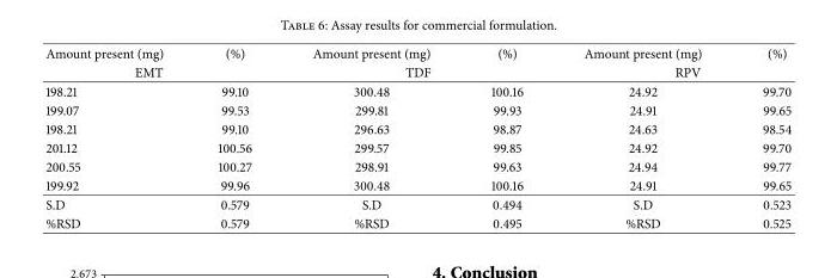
<table><thead><tr><td>Amount present (mg)</td><td>(%)</td><td>Amount present (mg)</td><td>(%)</td><td>Amount present (mg)</td><td>(%)</td></tr><tr><td colspan="2">EMT</td><td colspan="2">TDF</td><td colspan="2">RPV</td></tr></thead><tbody><tr><td>198.21</td><td>99.10</td><td>300.48</td><td>100.16</td><td>24.92</td><td>99.70</td></tr><tr><td>199.07</td><td>99.53</td><td>299.81</td><td>99.93</td><td>24.91</td><td>99.65</td></tr><tr><td>198.21</td><td>99.10</td><td>296.63</td><td>98.87</td><td>24.63</td><td>98.54</td></tr><tr><td>201.12</td><td>100.56</td><td>299.57</td><td>99.85</td><td>24.92</td><td>99.70</td></tr><tr><td>200.55</td><td>100.27</td><td>298.91</td><td>99.63</td><td>24.94</td><td>99.77</td></tr><tr><td>199.92</td><td>99.96</td><td>300.48</td><td>100.16</td><td>24.91</td><td>99.65</td></tr><tr><td>S.D</td><td>0.579</td><td>S.D</td><td>0.494</td><td>S.D</td><td>0.523</td></tr><tr><td>%RSD</td><td>0.579</td><td>%RSD</td><td>0.495</td><td>%RSD</td><td>0.525</td></tr></tbody></table>